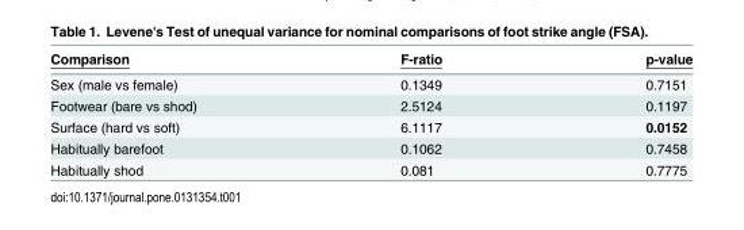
<table><thead><tr><td>Comparison</td><td>F-ratio</td><td>p-value</td></tr></thead><tbody><tr><td>Sex (male vs female)</td><td>0.1349</td><td>0.7151</td></tr><tr><td>Footwear (bare vs shod)</td><td>2.5124</td><td>0.1197</td></tr><tr><td>Surface (hard vs soft)</td><td>6.1117</td><td>0.0152</td></tr><tr><td>Habitually barefoot</td><td>0.1062</td><td>0.7458</td></tr><tr><td>Habitually shod</td><td>0.081</td><td>0.7775</td></tr></tbody></table>